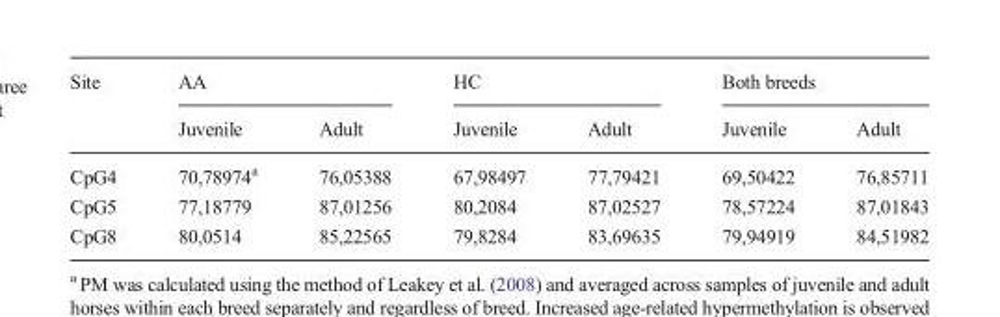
<table><thead><tr><td rowspan="2">Site</td><td colspan="2">AA</td><td colspan="2">HC</td><td colspan="2">Both breeds</td></tr><tr><td>Juvenile</td><td>Adult</td><td>Juvenile</td><td>Adult</td><td>Juvenile</td><td>Adult</td></tr></thead><tbody><tr><td>CpG4</td><td>70,78974<sup>a</sup></td><td>76,05388</td><td>67,98497</td><td>77,79421</td><td>69,50422</td><td>76,85711</td></tr><tr><td>CpG5</td><td>77,18779</td><td>87,01256</td><td>80,2084</td><td>87,02527</td><td>78,57224</td><td>87,01843</td></tr><tr><td>CpG8</td><td>80,0514</td><td>85,22565</td><td>79,8284</td><td>83,69635</td><td>79,94919</td><td>84,51982</td></tr></tbody></table>